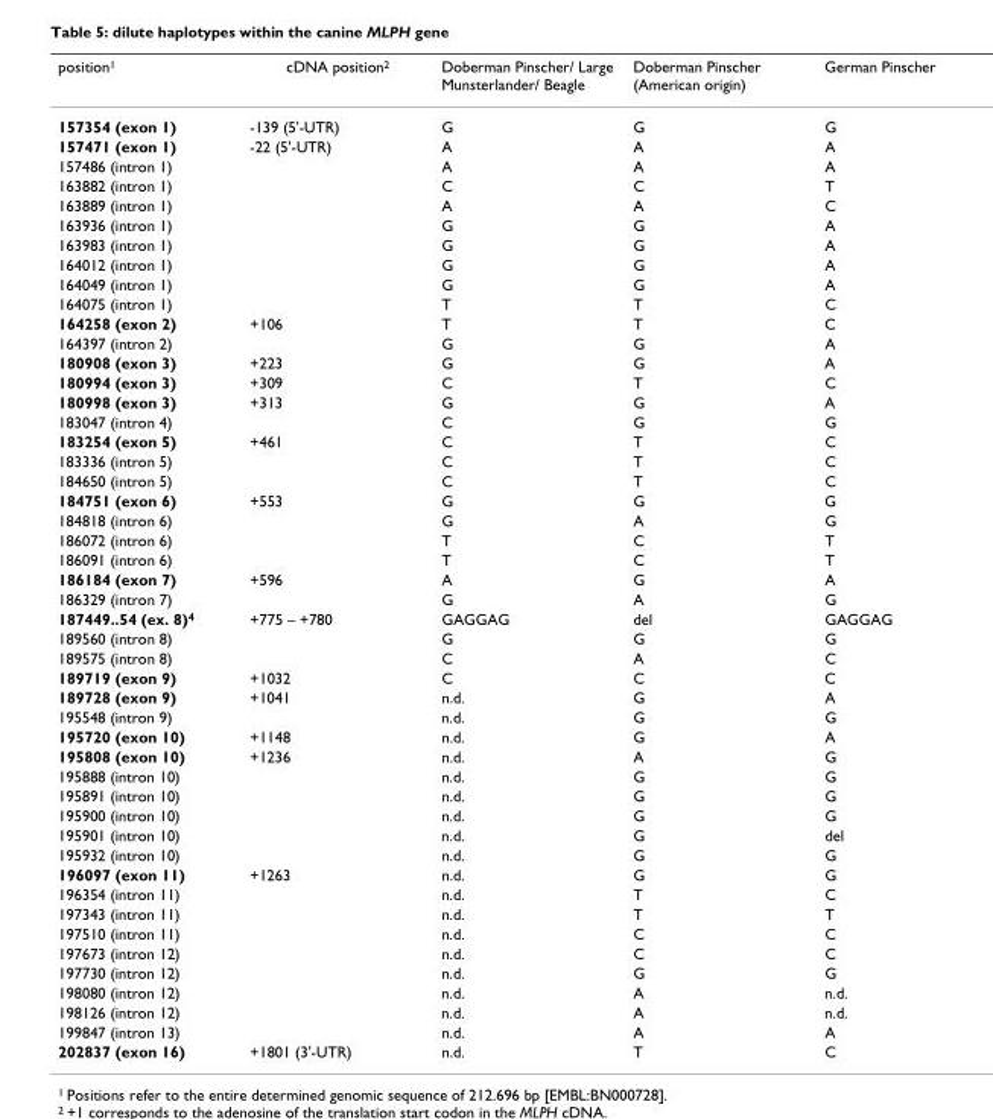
<table><thead><tr><td>position<sup>1</sup></td><td>cDNA position<sup>2</sup></td><td>Doberman Pinscher/ Large Munsterlander/ Beagle</td><td>Doberman Pinscher (American origin)</td><td>German Pinscher</td></tr></thead><tbody><tr><td>157354 (exon 1)</td><td>-139 (5&#x27;-UTR)</td><td>G</td><td>G</td><td>G</td></tr><tr><td>157471 (exon 1)</td><td>-22 (5&#x27;-UTR)</td><td>A</td><td>A</td><td>A</td></tr><tr><td>157486 (intron 1)</td><td></td><td>A</td><td>A</td><td>A</td></tr><tr><td>163882 (intron 1)</td><td></td><td>C</td><td>C</td><td>T</td></tr><tr><td>163889 (intron 1)</td><td></td><td>A</td><td>A</td><td>C</td></tr><tr><td>163936 (intron 1)</td><td></td><td>G</td><td>G</td><td>A</td></tr><tr><td>163983 (intron 1)</td><td></td><td>G</td><td>G</td><td>A</td></tr><tr><td>164012 (intron 1)</td><td></td><td>G</td><td>G</td><td>A</td></tr><tr><td>164049 (intron 1)</td><td></td><td>G</td><td>G</td><td>A</td></tr><tr><td>164075 (intron 1)</td><td></td><td>T</td><td>T</td><td>C</td></tr><tr><td>164258 (exon 2)</td><td>+106</td><td>T</td><td>T</td><td>C</td></tr><tr><td>164397 (intron 2)</td><td></td><td>G</td><td>G</td><td>A</td></tr><tr><td>180908 (exon 3)</td><td>+223</td><td>G</td><td>G</td><td>A</td></tr><tr><td>180994 (exon 3)</td><td>+309</td><td>C</td><td>T</td><td>C</td></tr><tr><td>180998 (exon 3)</td><td>+313</td><td>G</td><td>G</td><td>A</td></tr><tr><td>183047 (intron 4)</td><td></td><td>C</td><td>G</td><td>G</td></tr><tr><td>183254 (exon 5)</td><td>+461</td><td>C</td><td>T</td><td>C</td></tr><tr><td>183336 (intron 5)</td><td></td><td>C</td><td>T</td><td>C</td></tr><tr><td>184650 (intron 5)</td><td></td><td>C</td><td>T</td><td>C</td></tr><tr><td>184751 (exon 6)</td><td>+553</td><td>G</td><td>G</td><td>G</td></tr><tr><td>184818 (intron 6)</td><td></td><td>G</td><td>A</td><td>G</td></tr><tr><td>186072 (intron 6)</td><td></td><td>T</td><td>C</td><td>T</td></tr><tr><td>186091 (intron 6)</td><td></td><td>T</td><td>C</td><td>T</td></tr><tr><td>186184 (exon 7)</td><td>+596</td><td>A</td><td>G</td><td>A</td></tr><tr><td>186329 (intron 7)</td><td></td><td>G</td><td>A</td><td>G</td></tr><tr><td>187449..54 (ex. 8)<sup>4</sup></td><td>+775 – +780</td><td>GAGGAG</td><td>del</td><td>GAGGAG</td></tr><tr><td>189560 (intron 8)</td><td></td><td>G</td><td>G</td><td>G</td></tr><tr><td>189575 (intron 8)</td><td></td><td>C</td><td>A</td><td>C</td></tr><tr><td>189719 (exon 9)</td><td>+1032</td><td>C</td><td>C</td><td>C</td></tr><tr><td>189728 (exon 9)</td><td>+1041</td><td>n.d.</td><td>G</td><td>A</td></tr><tr><td>195548 (intron 9)</td><td></td><td>n.d.</td><td>G</td><td>G</td></tr><tr><td>195720 (exon 10)</td><td>+1148</td><td>n.d.</td><td>G</td><td>A</td></tr><tr><td>195808 (exon 10)</td><td>+1236</td><td>n.d.</td><td>A</td><td>G</td></tr><tr><td>195888 (intron 10)</td><td></td><td>n.d.</td><td>G</td><td>G</td></tr><tr><td>195891 (intron 10)</td><td></td><td>n.d.</td><td>G</td><td>G</td></tr><tr><td>195900 (intron 10)</td><td></td><td>n.d.</td><td>G</td><td>G</td></tr><tr><td>195901 (intron 10)</td><td></td><td>n.d.</td><td>G</td><td>del</td></tr><tr><td>195932 (intron 10)</td><td></td><td>n.d.</td><td>G</td><td>G</td></tr><tr><td>196097 (exon 11)</td><td>+1263</td><td>n.d.</td><td>G</td><td>G</td></tr><tr><td>196354 (intron 11)</td><td></td><td>n.d.</td><td>T</td><td>C</td></tr><tr><td>197343 (intron 11)</td><td></td><td>n.d.</td><td>T</td><td>T</td></tr><tr><td>197510 (intron 11)</td><td></td><td>n.d.</td><td>C</td><td>C</td></tr><tr><td>197673 (intron 12)</td><td></td><td>n.d.</td><td>C</td><td>C</td></tr><tr><td>197730 (intron 12)</td><td></td><td>n.d.</td><td>G</td><td>G</td></tr><tr><td>198080 (intron 12)</td><td></td><td>n.d.</td><td>A</td><td>n.d.</td></tr><tr><td>198126 (intron 12)</td><td></td><td>n.d.</td><td>A</td><td>n.d.</td></tr><tr><td>199847 (intron 13)</td><td></td><td>n.d.</td><td>A</td><td>A</td></tr><tr><td>202837 (exon 16)</td><td>+1801 (3&#x27;-UTR)</td><td>n.d.</td><td>T</td><td>C</td></tr></tbody></table>